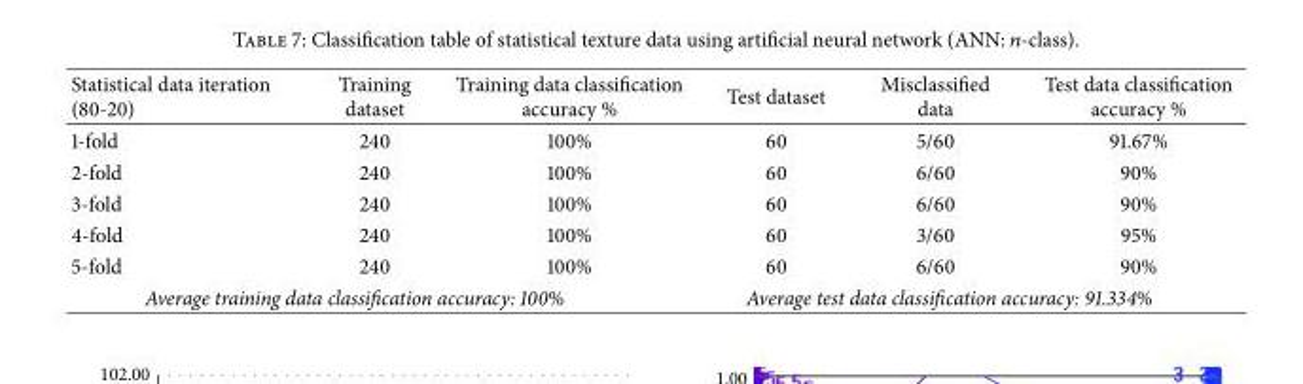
<table><thead><tr><td>Statistical data iteration (80-20)</td><td>Training dataset</td><td>Training data classification accuracy %</td><td>Test dataset</td><td>Misclassified data</td><td>Test data classification accuracy %</td></tr></thead><tbody><tr><td>1-fold</td><td>240</td><td>100%</td><td>60</td><td>5/60</td><td>91.67%</td></tr><tr><td>2-fold</td><td>240</td><td>100%</td><td>60</td><td>6/60</td><td>90%</td></tr><tr><td>3-fold</td><td>240</td><td>100%</td><td>60</td><td>6/60</td><td>90%</td></tr><tr><td>4-fold</td><td>240</td><td>100%</td><td>60</td><td>3/60</td><td>95%</td></tr><tr><td>5-fold</td><td>240</td><td>100%</td><td>60</td><td>6/60</td><td>90%</td></tr><tr><td colspan="3">Average training data classification accuracy: 100%</td><td colspan="3">Average test data classification accuracy: 91.334%</td></tr></tbody></table>